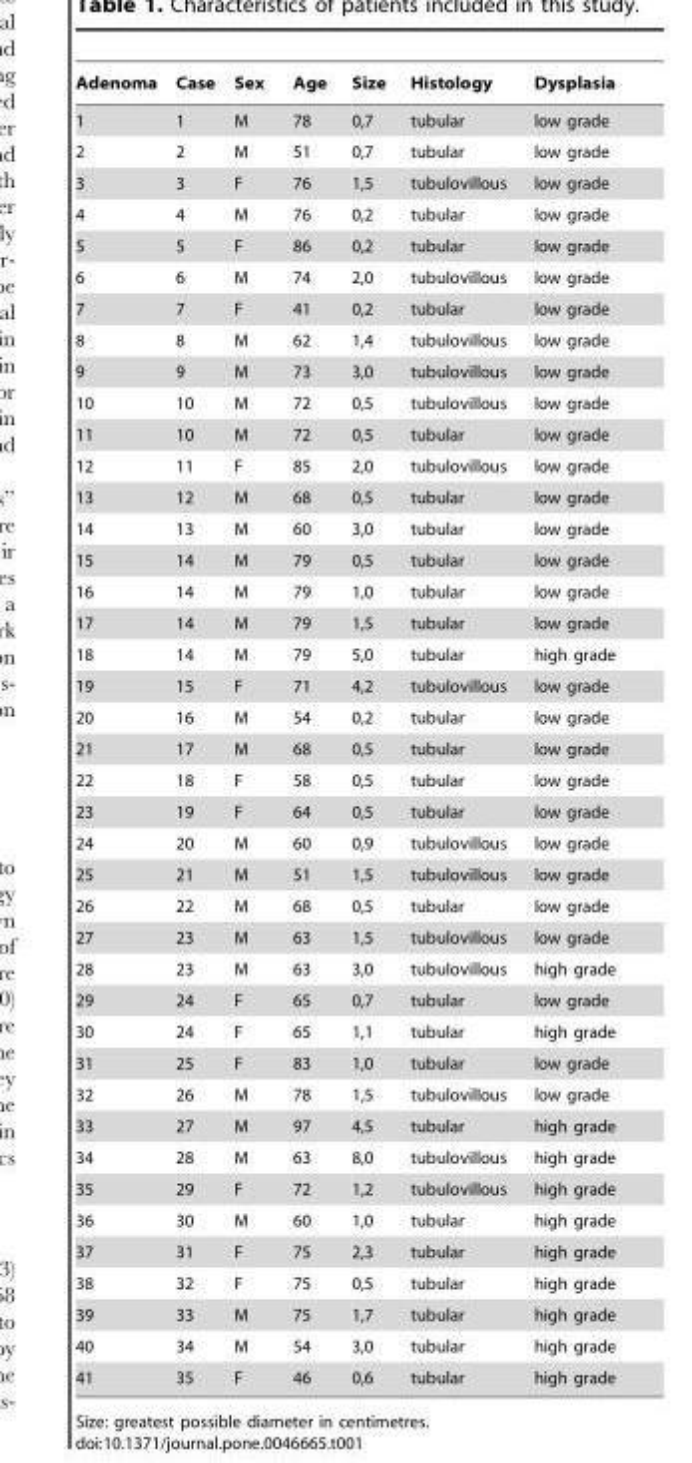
<table><thead><tr><td>Adenoma</td><td>Case</td><td>Sex</td><td>Age</td><td>Size</td><td>Histology</td><td>Dysplasia</td></tr></thead><tbody><tr><td>1</td><td>1</td><td>M</td><td>78</td><td>0,7</td><td>tubular</td><td>low grade</td></tr><tr><td>2</td><td>2</td><td>M</td><td>51</td><td>0,7</td><td>tubular</td><td>low grade</td></tr><tr><td>3</td><td>3</td><td>F</td><td>76</td><td>1,5</td><td>tubulovillous</td><td>low grade</td></tr><tr><td>4</td><td>4</td><td>M</td><td>76</td><td>0,2</td><td>tubular</td><td>low grade</td></tr><tr><td>5</td><td>5</td><td>F</td><td>86</td><td>0,2</td><td>tubular</td><td>low grade</td></tr><tr><td>6</td><td>6</td><td>M</td><td>74</td><td>2,0</td><td>tubulovillous</td><td>low grade</td></tr><tr><td>7</td><td>7</td><td>F</td><td>41</td><td>0,2</td><td>tubular</td><td>low grade</td></tr><tr><td>8</td><td>8</td><td>M</td><td>62</td><td>1,4</td><td>tubulovillous</td><td>low grade</td></tr><tr><td>9</td><td>9</td><td>M</td><td>73</td><td>3,0</td><td>tubulovillous</td><td>low grade</td></tr><tr><td>10</td><td>10</td><td>M</td><td>72</td><td>0,5</td><td>tubulovillous</td><td>low grade</td></tr><tr><td>11</td><td>10</td><td>M</td><td>72</td><td>0,5</td><td>tubular</td><td>low grade</td></tr><tr><td>12</td><td>11</td><td>F</td><td>85</td><td>2,0</td><td>tubulovillous</td><td>low grade</td></tr><tr><td>13</td><td>12</td><td>M</td><td>68</td><td>0,5</td><td>tubular</td><td>low grade</td></tr><tr><td>14</td><td>13</td><td>M</td><td>60</td><td>3,0</td><td>tubular</td><td>low grade</td></tr><tr><td>15</td><td>14</td><td>M</td><td>79</td><td>0,5</td><td>tubular</td><td>low grade</td></tr><tr><td>16</td><td>14</td><td>M</td><td>79</td><td>1,0</td><td>tubular</td><td>low grade</td></tr><tr><td>17</td><td>14</td><td>M</td><td>79</td><td>1,5</td><td>tubular</td><td>low grade</td></tr><tr><td>18</td><td>14</td><td>M</td><td>79</td><td>5,0</td><td>tubular</td><td>high grade</td></tr><tr><td>19</td><td>15</td><td>F</td><td>71</td><td>4,2</td><td>tubulovillous</td><td>low grade</td></tr><tr><td>20</td><td>16</td><td>M</td><td>54</td><td>0,2</td><td>tubular</td><td>low grade</td></tr><tr><td>21</td><td>17</td><td>M</td><td>68</td><td>0,5</td><td>tubular</td><td>low grade</td></tr><tr><td>22</td><td>18</td><td>F</td><td>58</td><td>0,5</td><td>tubular</td><td>low grade</td></tr><tr><td>23</td><td>19</td><td>F</td><td>64</td><td>0,5</td><td>tubular</td><td>low grade</td></tr><tr><td>24</td><td>20</td><td>M</td><td>60</td><td>0,9</td><td>tubulovillous</td><td>low grade</td></tr><tr><td>25</td><td>21</td><td>M</td><td>51</td><td>1,5</td><td>tubulovillous</td><td>low grade</td></tr><tr><td>26</td><td>22</td><td>M</td><td>68</td><td>0,5</td><td>tubular</td><td>low grade</td></tr><tr><td>27</td><td>23</td><td>M</td><td>63</td><td>1,5</td><td>tubulovillous</td><td>low grade</td></tr><tr><td>28</td><td>23</td><td>M</td><td>63</td><td>3,0</td><td>tubulovillous</td><td>high grade</td></tr><tr><td>29</td><td>24</td><td>F</td><td>65</td><td>0,7</td><td>tubular</td><td>low grade</td></tr><tr><td>30</td><td>24</td><td>F</td><td>65</td><td>1,1</td><td>tubular</td><td>high grade</td></tr><tr><td>31</td><td>25</td><td>F</td><td>83</td><td>1,0</td><td>tubular</td><td>low grade</td></tr><tr><td>32</td><td>26</td><td>M</td><td>78</td><td>1,5</td><td>tubulovillous</td><td>low grade</td></tr><tr><td>33</td><td>27</td><td>M</td><td>97</td><td>4,5</td><td>tubular</td><td>high grade</td></tr><tr><td>34</td><td>28</td><td>M</td><td>63</td><td>8,0</td><td>tubulovillous</td><td>high grade</td></tr><tr><td>35</td><td>29</td><td>F</td><td>72</td><td>1,2</td><td>tubulovillous</td><td>high grade</td></tr><tr><td>36</td><td>30</td><td>M</td><td>60</td><td>1,0</td><td>tubular</td><td>high grade</td></tr><tr><td>37</td><td>31</td><td>F</td><td>75</td><td>2,3</td><td>tubular</td><td>high grade</td></tr><tr><td>38</td><td>32</td><td>F</td><td>75</td><td>0,5</td><td>tubular</td><td>high grade</td></tr><tr><td>39</td><td>33</td><td>M</td><td>75</td><td>1,7</td><td>tubular</td><td>high grade</td></tr><tr><td>40</td><td>34</td><td>M</td><td>54</td><td>3,0</td><td>tubular</td><td>high grade</td></tr><tr><td>41</td><td>35</td><td>F</td><td>46</td><td>0,6</td><td>tubular</td><td>high grade</td></tr></tbody></table>